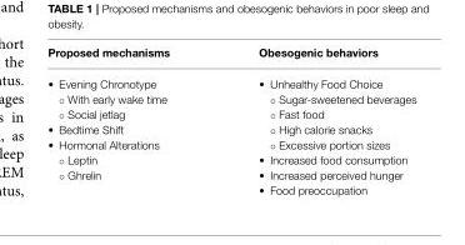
<table><thead><tr><td>Proposed mechanisms</td><td>Obesogenic behaviors</td></tr></thead><tbody><tr><td>• Evening Chronotype ◦ With early wake time ◦ Social jetlag • Bedtime Shift • Hormonal Alterations ◦ Leptin ◦ Ghrelin</td><td>• Unhealthy Food Choice ◦ Sugar-sweetened beverages ◦ Fast food ◦ High calorie snacks ◦ Excessive portion sizes • Increased food consumption • Increased perceived hunger • Food preoccupation</td></tr></tbody></table>